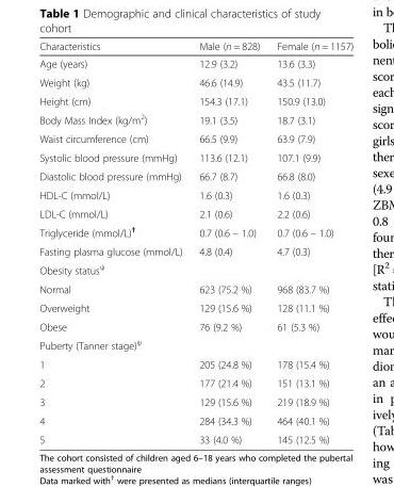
<table><thead><tr><td>Characteristics</td><td>Male (n = 828)</td><td>Female (n = 1157)</td></tr></thead><tbody><tr><td>Age (years)</td><td>12.9 (3.2)</td><td>13.6 (3.3)</td></tr><tr><td>Weight (kg)</td><td>46.6 (14.9)</td><td>43.5 (11.7)</td></tr><tr><td>Height (cm)</td><td>154.3 (17.1)</td><td>150.9 (13.0)</td></tr><tr><td>Body Mass Index (kg/m<sup>2</sup>)</td><td>19.1 (3.5)</td><td>18.7 (3.1)</td></tr><tr><td>Waist circumference (cm)</td><td>66.5 (9.9)</td><td>63.9 (7.9)</td></tr><tr><td>Systolic blood pressure (mmHg)</td><td>113.6 (12.1)</td><td>107.1 (9.9)</td></tr><tr><td>Diastolic blood pressure (mmHg)</td><td>66.7 (8.7)</td><td>66.8 (8.0)</td></tr><tr><td>HDL-C (mmol/L)</td><td>1.6 (0.3)</td><td>1.6 (0.3)</td></tr><tr><td>LDL-C (mmol/L)</td><td>2.1 (0.6)</td><td>2.2 (0.6)</td></tr><tr><td>Triglyceride (mmol/L)<sup>†</sup></td><td>0.7 (0.6 – 1.0)</td><td>0.7 (0.6 – 1.0)</td></tr><tr><td>Fasting plasma glucose (mmol/L)</td><td>4.8 (0.4)</td><td>4.7 (0.3)</td></tr><tr><td colspan="3">Obesity status<sup>ψ</sup></td></tr><tr><td>Normal</td><td>623 (75.2 %)</td><td>968 (83.7 %)</td></tr><tr><td>Overweight</td><td>129 (15.6 %)</td><td>128 (11.1 %)</td></tr><tr><td>Obese</td><td>76 (9.2 %)</td><td>61 (5.3 %)</td></tr><tr><td colspan="3">Puberty (Tanner stage)<sup>ψ</sup></td></tr><tr><td>1</td><td>205 (24.8 %)</td><td>178 (15.4 %)</td></tr><tr><td>2</td><td>177 (21.4 %)</td><td>151 (13.1 %)</td></tr><tr><td>3</td><td>129 (15.6 %)</td><td>219 (18.9 %)</td></tr><tr><td>4</td><td>284 (34.3 %)</td><td>464 (40.1 %)</td></tr><tr><td>5</td><td>33 (4.0 %)</td><td>145 (12.5 %)</td></tr></tbody></table>